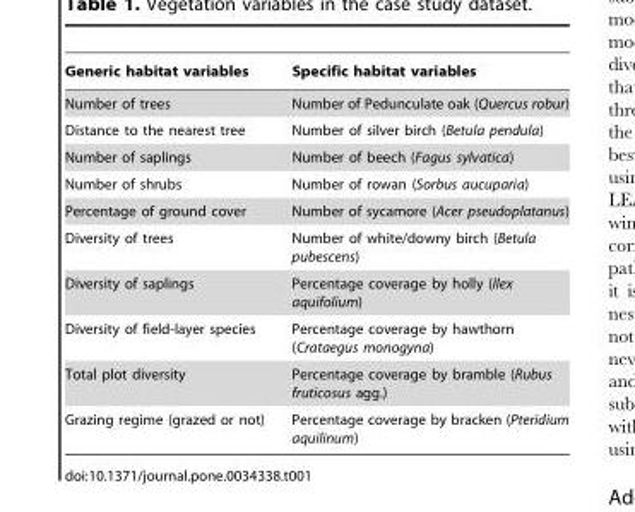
<table><thead><tr><td>Generic habitat variables</td><td>Specific habitat variables</td></tr></thead><tbody><tr><td>Number of trees</td><td>Number of Pedunculate oak (Quercus robur)</td></tr><tr><td>Distance to the nearest tree</td><td>Number of silver birch (Betula pendula)</td></tr><tr><td>Number of saplings</td><td>Number of beech (Fagus sylvatica)</td></tr><tr><td>Number of shrubs</td><td>Number of rowan (Sorbus aucuparia)</td></tr><tr><td>Percentage of ground cover</td><td>Number of sycamore (Acer pseudoplatanus)</td></tr><tr><td>Diversity of trees</td><td>Number of white/downy birch (Betula pubescens)</td></tr><tr><td>Diversity of saplings</td><td>Percentage coverage by holly (Ilex aquifolium)</td></tr><tr><td>Diversity of field-layer species</td><td>Percentage coverage by hawthorn (Crataegus monogyna)</td></tr><tr><td>Total plot diversity</td><td>Percentage coverage by bramble (Rubus fruticosus agg.)</td></tr><tr><td>Grazing regime (grazed or not)</td><td>Percentage coverage by bracken (Pteridium aquilinum)</td></tr></tbody></table>